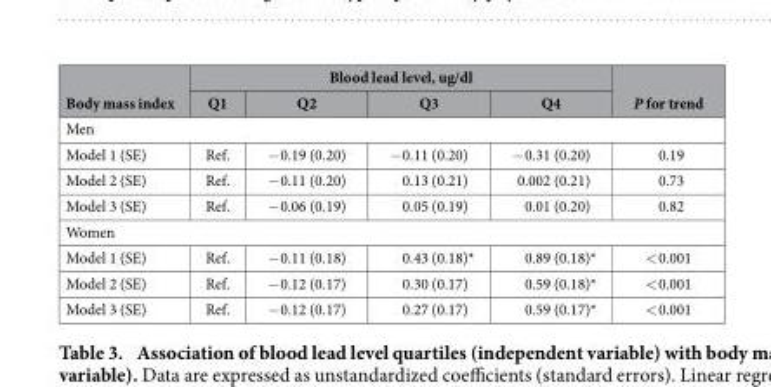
<table><thead><tr><td rowspan="2">Body mass index</td><td colspan="4">Blood lead level, ug/dl</td><td rowspan="2">P for trend</td></tr><tr><td>Q1</td><td>Q2</td><td>Q3</td><td>Q4</td></tr></thead><tbody><tr><td colspan="6">Men</td></tr><tr><td>Model 1 (SE)</td><td>Ref.</td><td>− 0.19 (0.20)</td><td>− 0.11 (0.20)</td><td>− 0.31 (0.20)</td><td>0.19</td></tr><tr><td>Model 2 (SE)</td><td>Ref.</td><td>− 0.11 (0.20)</td><td>0.13 (0.21)</td><td>0.002 (0.21)</td><td>0.73</td></tr><tr><td>Model 3 (SE)</td><td>Ref.</td><td>− 0.06 (0.19)</td><td>0.05 (0.19)</td><td>0.01 (0.20)</td><td>0.82</td></tr><tr><td colspan="6">Women</td></tr><tr><td>Model 1 (SE)</td><td>Ref.</td><td>− 0.11 (0.18)</td><td>0.43 (0.18)*</td><td>0.89 (0.18)*</td><td>&lt; 0.001</td></tr><tr><td>Model 2 (SE)</td><td>Ref.</td><td>− 0.12 (0.17)</td><td>0.30 (0.17)</td><td>0.59 (0.18)*</td><td>&lt; 0.001</td></tr><tr><td>Model 3 (SE)</td><td>Ref.</td><td>− 0.12 (0.17)</td><td>0.27 (0.17)</td><td>0.59 (0.17)*</td><td>&lt; 0.001</td></tr></tbody></table>